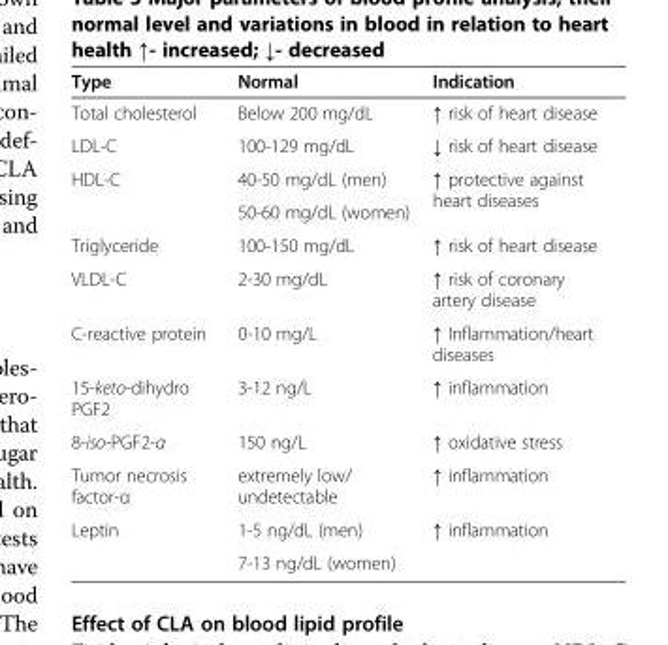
<table><thead><tr><td>Type</td><td>Normal</td><td>Indication</td></tr></thead><tbody><tr><td>Total cholesterol</td><td>Below 200 mg/dL</td><td>↑ risk of heart disease</td></tr><tr><td>LDL-C</td><td>100-129 mg/dL</td><td>↓ risk of heart disease</td></tr><tr><td rowspan="2">HDL-C</td><td>40-50 mg/dL (men)</td><td rowspan="2">↑ protective against heart diseases</td></tr><tr><td>50-60 mg/dL (women)</td></tr><tr><td>Triglyceride</td><td>100-150 mg/dL</td><td>↑ risk of heart disease</td></tr><tr><td>VLDL-C</td><td>2-30 mg/dL</td><td>↑ risk of coronary artery disease</td></tr><tr><td>C-reactive protein</td><td>0-10 mg/L</td><td>↑ Inflammation/heart diseases</td></tr><tr><td>15-keto-dihydro PGF2</td><td>3-12 ng/L</td><td>↑ inflammation</td></tr><tr><td>8-iso-PGF2-α</td><td>150 ng/L</td><td>↑ oxidative stress</td></tr><tr><td>Tumor necrosis factor-α</td><td>extremely low/ undetectable</td><td>↑ inflammation</td></tr><tr><td rowspan="2">Leptin</td><td>1-5 ng/dL (men)</td><td rowspan="2">↑ inflammation</td></tr><tr><td>7-13 ng/dL (women)</td></tr></tbody></table>